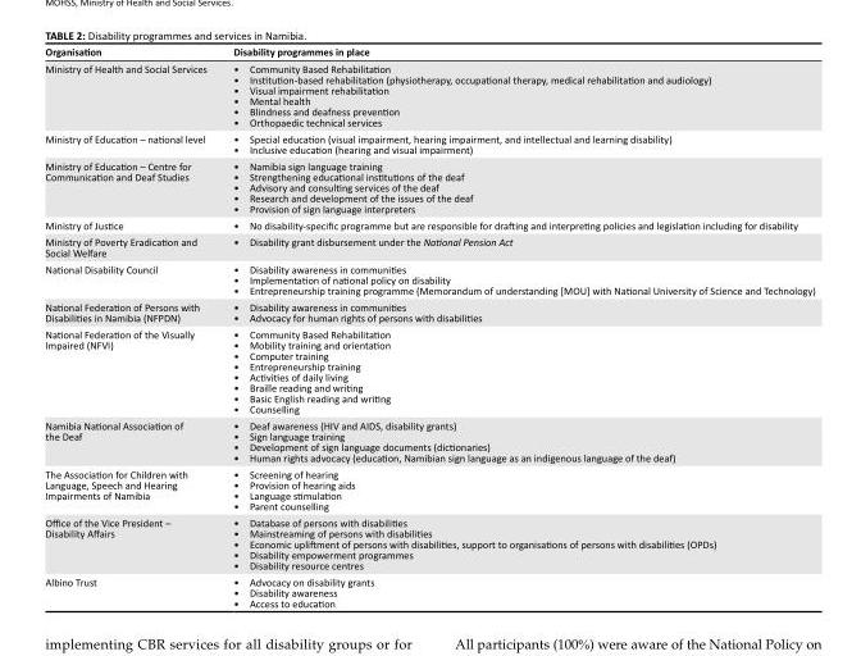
<table><thead><tr><td>Organisation</td><td>Disability programmes in place</td></tr></thead><tbody><tr><td>Ministry of Health and Social Services</td><td>• Community Based Rehabilitation • Institution-based rehabilitation (physiotherapy, occupational therapy, medical rehabilitation and audiology) • Visual impairment rehabilitation • Mental health • Blindness and deafness prevention • Orthopaedic technical services</td></tr><tr><td>Ministry of Education – national level</td><td>• Special education (visual impairment, hearing impairment, and intellectual and learning disability) • Inclusive education (hearing and visual impairment)</td></tr><tr><td>Ministry of Education – Centre for Communication and Deaf Studies</td><td>• Namibia sign language training • Strengthening educational institutions of the deaf • Advisory and consulting services of the deaf • Research and development of the issues of the deaf • Provision of sign language interpreters</td></tr><tr><td>Ministry of Justice</td><td>• No disability-specific programme but are responsible for drafting and interpreting policies and legislation including for disability</td></tr><tr><td>Ministry of Poverty Eradication and Social Welfare</td><td>• Disability grant disbursement under the National Pension Act</td></tr><tr><td>National Disability Council</td><td>• Disability awareness in communities • Implementation of national policy on disability • Entrepreneurship training programme (Memorandum of understanding [MOU] with National University of Science and Technology)</td></tr><tr><td>National Federation of Persons with Disabilities in Namibia (NFPDN)</td><td>• Disability awareness in communities • Advocacy for human rights of persons with disabilities</td></tr><tr><td>National Federation of the Visually Impaired (NFVI)</td><td>• Community Based Rehabilitation • Mobility training and orientation • Computer training • Entrepreneurship training • Activities of daily living • Braille reading and writing • Basic English reading and writing • Counselling</td></tr><tr><td>Namibia National Association of the Deaf</td><td>• Deaf awareness (HIV and AIDS, disability grants) • Sign language training • Development of sign language documents (dictionaries) • Human rights advocacy (education, Namibian sign language as an indigenous language of the deaf)</td></tr><tr><td>The Association for Children with Language, Speech and Hearing Impairments of Namibia</td><td>• Screening of hearing • Provision of hearing aids • Language stimulation • Parent counselling</td></tr><tr><td>Office of the Vice President – Disability Affairs</td><td>• Database of persons with disabilities • Mainstreaming of persons with disabilities • Economic upliftment of persons with disabilities, support to organisations of persons with disabilities (OPDs) • Disability empowerment programmes • Disability resource centres</td></tr><tr><td>Albino Trust</td><td>• Advocacy on disability grants • Disability awareness • Access to education</td></tr></tbody></table>